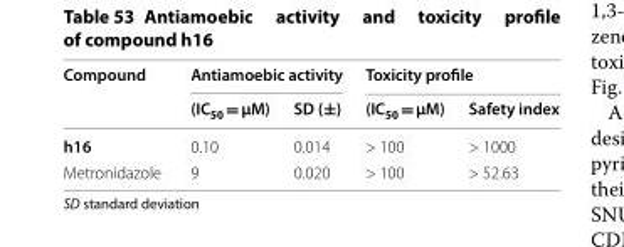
<table><thead><tr><td rowspan="2">Compound</td><td colspan="2">Antiamoebic activity</td><td colspan="2">Toxicity profile</td></tr><tr><td>(IC<sub>50</sub> = µM)</td><td>SD (±)</td><td>(IC<sub>50</sub> = µM)</td><td>Safety index</td></tr></thead><tbody><tr><td>h16</td><td>0.10</td><td>0.014</td><td>&gt; 100</td><td>&gt; 1000</td></tr><tr><td>Metronidazole</td><td>9</td><td>0.020</td><td>&gt; 100</td><td>&gt; 52.63</td></tr></tbody></table>